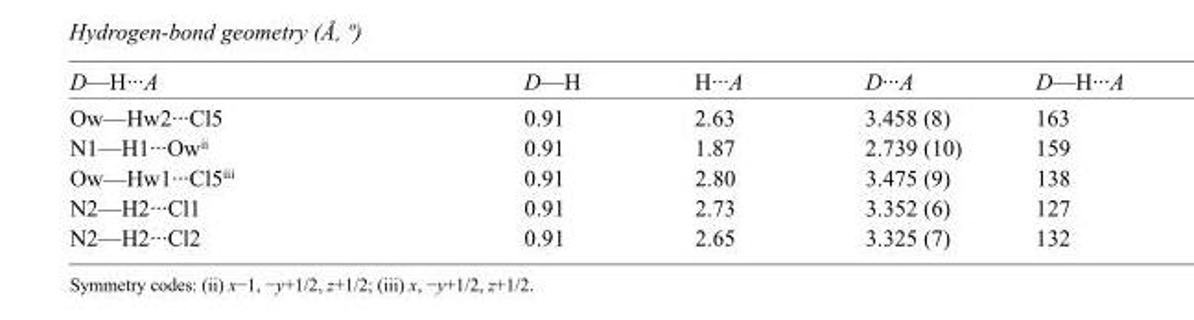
<table><tbody><tr><td>D—H···A</td><td>D—H</td><td>H···A</td><td>D···A</td><td>D—H···A</td></tr><tr><td>Ow—Hw2···Cl5</td><td>0.91</td><td>2.63</td><td>3.458 (8)</td><td>163</td></tr><tr><td>N1—H1···Ow<sup>ii</sup></td><td>0.91</td><td>1.87</td><td>2.739 (10)</td><td>159</td></tr><tr><td>Ow—Hw1···Cl5<sup>iii</sup></td><td>0.91</td><td>2.80</td><td>3.475 (9)</td><td>138</td></tr><tr><td>N2—H2···Cl1</td><td>0.91</td><td>2.73</td><td>3.352 (6)</td><td>127</td></tr><tr><td>N2—H2···Cl2</td><td>0.91</td><td>2.65</td><td>3.325 (7)</td><td>132</td></tr></tbody></table>